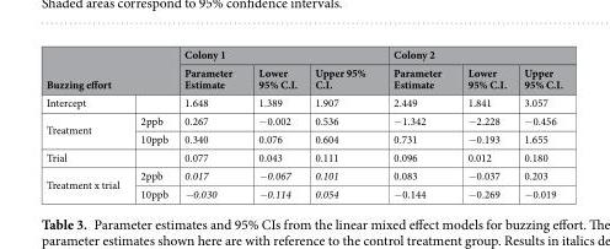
<table><thead><tr><td rowspan="2" colspan="2">Buzzing effort</td><td colspan="3">Colony 1</td><td colspan="3">Colony 2</td></tr><tr><td rowspan="2">Parameter Estimate 1.648</td><td rowspan="2">Lower 95% C.I. 1.389</td><td rowspan="2">Upper 95% C.I. 1.907</td><td rowspan="2">Parameter Estimate 2.449</td><td rowspan="2">Lower 95% C.I. 1.841</td><td rowspan="2">Upper 95% C.I. 3.057</td></tr><tr><td>Intercept</td><td></td></tr></thead><tbody><tr><td rowspan="2">Treatment</td><td>2ppb</td><td>0.267</td><td>−0.002</td><td>0.536</td><td>−1.342</td><td>−2.228</td><td>−0.456</td></tr><tr><td>10ppb</td><td>0.340</td><td>0.076</td><td>0.604</td><td>0.731</td><td>−0.193</td><td>1.655</td></tr><tr><td>Trial</td><td></td><td>0.077</td><td>0.043</td><td>0.111</td><td>0.096</td><td>0.012</td><td>0.180</td></tr><tr><td rowspan="2">Treatment x trial</td><td>2ppb</td><td>0.017</td><td>−0.067</td><td>0.101</td><td>0.083</td><td>−0.037</td><td>0.203</td></tr><tr><td>10ppb</td><td>−0.030</td><td>−0.114</td><td>0.054</td><td>−0.144</td><td>−0.269</td><td>−0.019</td></tr></tbody></table>